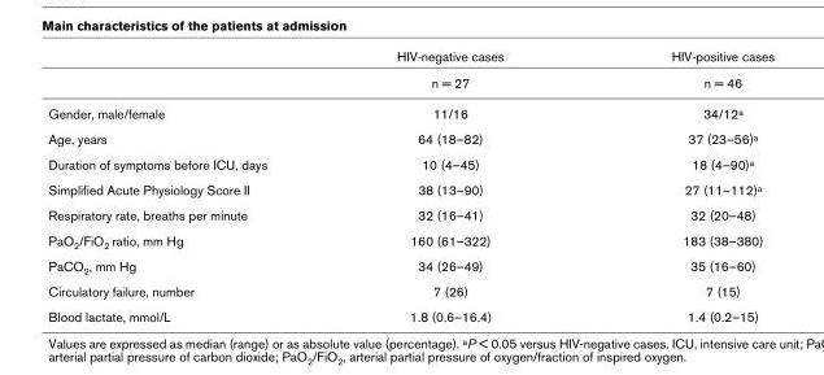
<table><thead><tr><td></td><td>HIV-negative cases</td><td>HIV-positive cases</td></tr></thead><tbody><tr><td></td><td>n = 27</td><td>n = 46</td></tr><tr><td>Gender, male/female</td><td>11/16</td><td>34/12<sup>a</sup></td></tr><tr><td>Age, years</td><td>64 (18–82)</td><td>37 (23–56)<sup>a</sup></td></tr><tr><td>Duration of symptoms before ICU, days</td><td>10 (4–45)</td><td>18 (4–90)<sup>a</sup></td></tr><tr><td>Simplified Acute Physiology Score II</td><td>38 (13–90)</td><td>27 (11–112)<sup>a</sup></td></tr><tr><td>Respiratory rate, breaths per minute</td><td>32 (16–41)</td><td>32 (20–48)</td></tr><tr><td>PaO<sub>2</sub>/FiO<sub>2</sub> ratio, mm Hg</td><td>160 (61–322)</td><td>183 (38–380)</td></tr><tr><td>PaCO<sub>2</sub>, mm Hg</td><td>34 (26–49)</td><td>35 (16–60)</td></tr><tr><td>Circulatory failure, number</td><td>7 (26)</td><td>7 (15)</td></tr><tr><td>Blood lactate, mmol/L</td><td>1.8 (0.6–16.4)</td><td>1.4 (0.2–15)</td></tr></tbody></table>